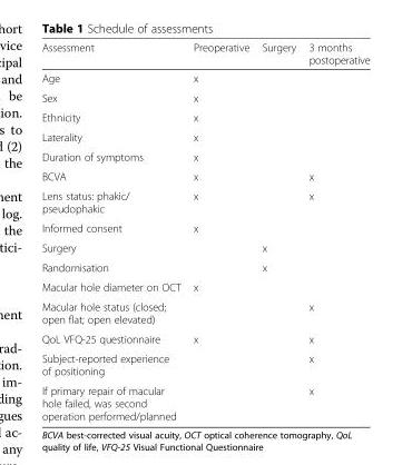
<table><thead><tr><td>Assessment</td><td>Preoperative</td><td>Surgery</td><td>3 months postoperative</td></tr></thead><tbody><tr><td>Age</td><td>x</td><td></td><td></td></tr><tr><td>Sex</td><td>x</td><td></td><td></td></tr><tr><td>Ethnicity</td><td>x</td><td></td><td></td></tr><tr><td>Laterality</td><td>x</td><td></td><td></td></tr><tr><td>Duration of symptoms</td><td>x</td><td></td><td></td></tr><tr><td>BCVA</td><td>x</td><td></td><td>x</td></tr><tr><td>Lens status: phakic/ pseudophakic</td><td>x</td><td></td><td>x</td></tr><tr><td>Informed consent</td><td>x</td><td></td><td></td></tr><tr><td>Surgery</td><td></td><td>x</td><td></td></tr><tr><td>Randomisation</td><td></td><td>x</td><td></td></tr><tr><td>Macular hole diameter on OCT</td><td>x</td><td></td><td></td></tr><tr><td>Macular hole status (closed; open flat; open elevated)</td><td></td><td></td><td>x</td></tr><tr><td>QoL VFQ-25 questionnaire</td><td>x</td><td></td><td>x</td></tr><tr><td>Subject-reported experience of positioning</td><td></td><td></td><td>x</td></tr><tr><td>If primary repair of macular hole failed, was second operation performed/planned</td><td></td><td></td><td>x</td></tr></tbody></table>